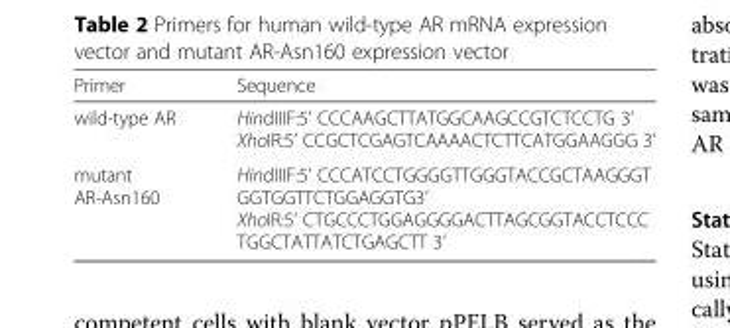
<table><thead><tr><td>Primer</td><td>Sequence</td></tr></thead><tbody><tr><td>wild-type AR</td><td>HindIIIF:5’ CCCAAGCTTATGGCAAGCCGTCTCCTG 3’ XhoIR:5’ CCGCTCGAGTCAAAACTCTTCATGGAAGGG 3’</td></tr><tr><td>mutant AR-Asn160</td><td>HindIIIF:5’ CCCATCCTGGGGTTGGGTACCGCTAAGGGT GGTGGTTCTGGAGGTG3’ XhoIR:5’ CTGCCCTGGAGGGGACTTAGCGGTACCTCCC TGGCTATTATCTGAGCTT 3’</td></tr></tbody></table>